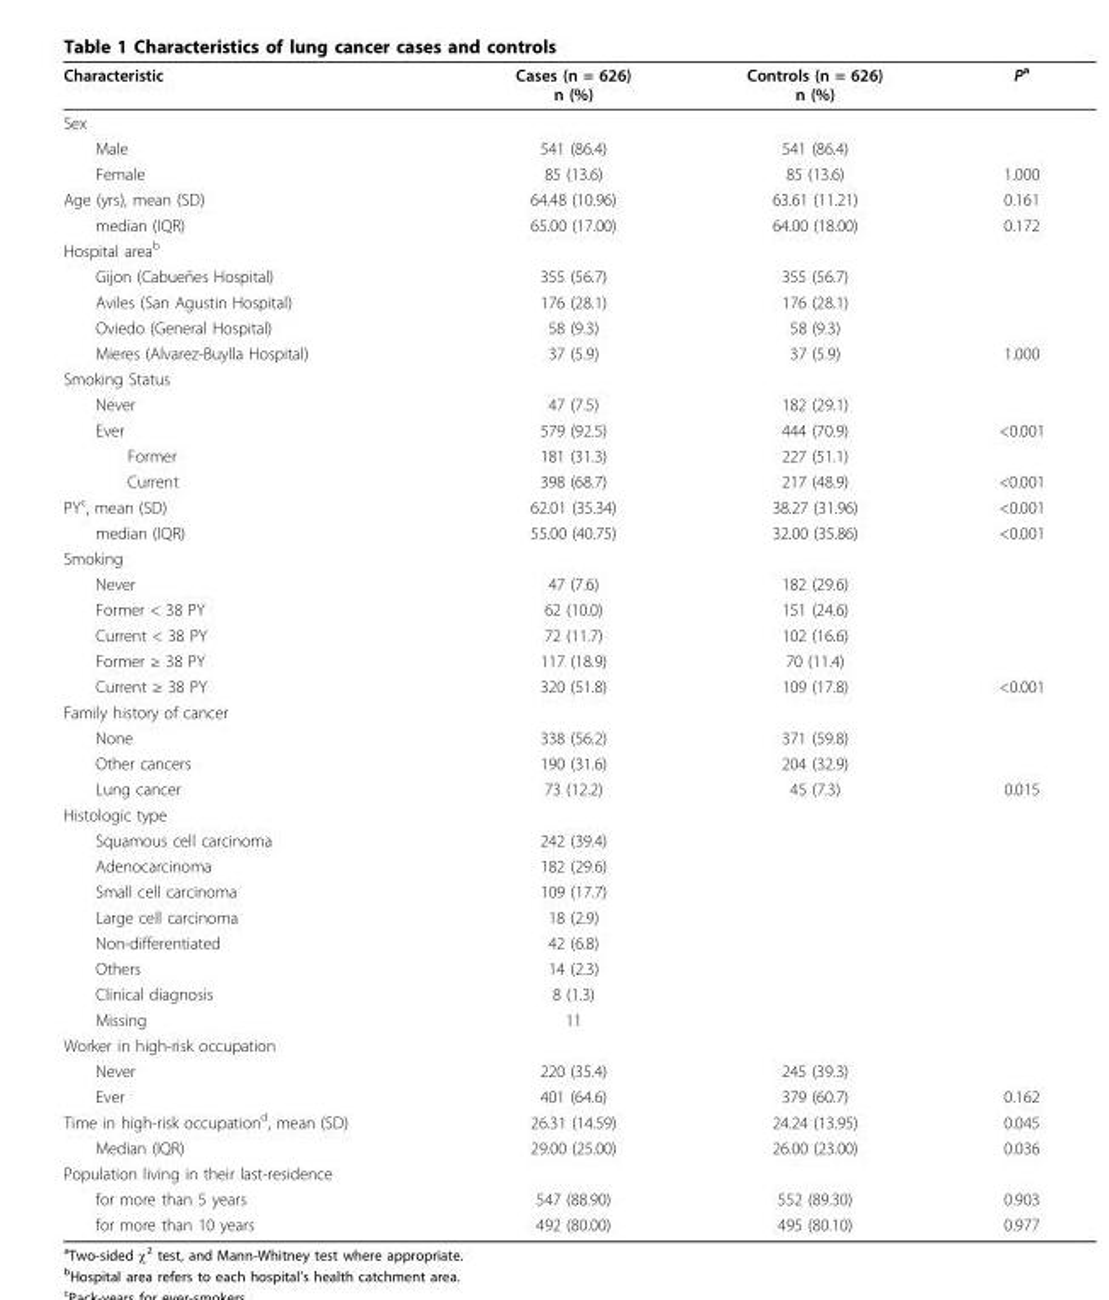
<table><thead><tr><td>Characteristic</td><td>Cases (n = 626) n (%)</td><td>Controls (n = 626) n (%)</td><td>P<sup>a</sup></td></tr></thead><tbody><tr><td colspan="4">Sex</td></tr><tr><td>Male</td><td>541 (86.4)</td><td>541 (86.4)</td><td></td></tr><tr><td>Female</td><td>85 (13.6)</td><td>85 (13.6)</td><td>1.000</td></tr><tr><td>Age (yrs), mean (SD)</td><td>64.48 (10.96)</td><td>63.61 (11.21)</td><td>0.161</td></tr><tr><td>median (IQR)</td><td>65.00 (17.00)</td><td>64.00 (18.00)</td><td>0.172</td></tr><tr><td colspan="4">Hospital area<sup>b</sup></td></tr><tr><td>Gijon (Cabueñes Hospital)</td><td>355 (56.7)</td><td>355 (56.7)</td><td></td></tr><tr><td>Aviles (San Agustin Hospital)</td><td>176 (28.1)</td><td>176 (28.1)</td><td></td></tr><tr><td>Oviedo (General Hospital)</td><td>58 (9.3)</td><td>58 (9.3)</td><td></td></tr><tr><td>Mieres (Alvarez-Buylla Hospital)</td><td>37 (5.9)</td><td>37 (5.9)</td><td>1.000</td></tr><tr><td colspan="4">Smoking Status</td></tr><tr><td>Never</td><td>47 (7.5)</td><td>182 (29.1)</td><td></td></tr><tr><td>Ever</td><td>579 (92.5)</td><td>444 (70.9)</td><td>&lt;0.001</td></tr><tr><td>Former</td><td>181 (31.3)</td><td>227 (51.1)</td><td></td></tr><tr><td>Current</td><td>398 (68.7)</td><td>217 (48.9)</td><td>&lt;0.001</td></tr><tr><td>PY<sup>c</sup>, mean (SD)</td><td>62.01 (35.34)</td><td>38.27 (31.96)</td><td>&lt;0.001</td></tr><tr><td>median (IQR)</td><td>55.00 (40.75)</td><td>32.00 (35.86)</td><td>&lt;0.001</td></tr><tr><td colspan="4">Smoking</td></tr><tr><td>Never</td><td>47 (7.6)</td><td>182 (29.6)</td><td></td></tr><tr><td>Former &lt; 38 PY</td><td>62 (10.0)</td><td>151 (24.6)</td><td></td></tr><tr><td>Current &lt; 38 PY</td><td>72 (11.7)</td><td>102 (16.6)</td><td></td></tr><tr><td>Former ≥ 38 PY</td><td>117 (18.9)</td><td>70 (11.4)</td><td></td></tr><tr><td>Current ≥ 38 PY</td><td>320 (51.8)</td><td>109 (17.8)</td><td>&lt;0.001</td></tr><tr><td colspan="4">Family history of cancer</td></tr><tr><td>None</td><td>338 (56.2)</td><td>371 (59.8)</td><td></td></tr><tr><td>Other cancers</td><td>190 (31.6)</td><td>204 (32.9)</td><td></td></tr><tr><td>Lung cancer</td><td>73 (12.2)</td><td>45 (7.3)</td><td>0.015</td></tr><tr><td colspan="4">Histologic type</td></tr><tr><td>Squamous cell carcinoma</td><td>242 (39.4)</td><td></td><td></td></tr><tr><td>Adenocarcinoma</td><td>182 (29.6)</td><td></td><td></td></tr><tr><td>Small cell carcinoma</td><td>109 (17.7)</td><td></td><td></td></tr><tr><td>Large cell carcinoma</td><td>18 (2.9)</td><td></td><td></td></tr><tr><td>Non-differentiated</td><td>42 (6.8)</td><td></td><td></td></tr><tr><td>Others</td><td>14 (2.3)</td><td></td><td></td></tr><tr><td>Clinical diagnosis</td><td>8 (1.3)</td><td></td><td></td></tr><tr><td>Missing</td><td>11</td><td></td><td></td></tr><tr><td colspan="4">Worker in high-risk occupation</td></tr><tr><td>Never</td><td>220 (35.4)</td><td>245 (39.3)</td><td></td></tr><tr><td>Ever</td><td>401 (64.6)</td><td>379 (60.7)</td><td>0.162</td></tr><tr><td>Time in high-risk occupation<sup>d</sup>, mean (SD)</td><td>26.31 (14.59)</td><td>24.24 (13.95)</td><td>0.045</td></tr><tr><td>Median (IQR)</td><td>29.00 (25.00)</td><td>26.00 (23.00)</td><td>0.036</td></tr><tr><td colspan="4">Population living in their last-residence</td></tr><tr><td>for more than 5 years</td><td>547 (88.90)</td><td>552 (89.30)</td><td>0.903</td></tr><tr><td>for more than 10 years</td><td>492 (80.00)</td><td>495 (80.10)</td><td>0.977</td></tr></tbody></table>